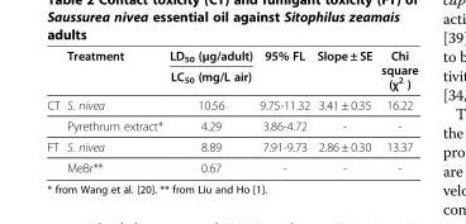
<table><thead><tr><td rowspan="2"></td><td rowspan="2">Treatment</td><td rowspan="2">LD<sub>50</sub> (μg/adult) LC<sub>50</sub> (mg/L air)</td><td rowspan="2">95% FL</td><td rowspan="2">Slope ± SE</td><td rowspan="2">Chi square (χ<sup>2</sup> )</td></tr><tr></tr></thead><tbody><tr><td rowspan="2">CT</td><td>S. nivea</td><td>10.56</td><td>9.75-11.32</td><td>3.41 ± 0.35</td><td>16.22</td></tr><tr><td>Pyrethrum extract*</td><td>4.29</td><td>3.86-4.72</td><td>-</td><td>-</td></tr><tr><td rowspan="2">FT</td><td>S. nivea</td><td>8.89</td><td>7.91-9.73</td><td>2.86 ± 0.30</td><td>13.37</td></tr><tr><td>MeBr**</td><td>0.67</td><td>-</td><td>-</td><td>-</td></tr></tbody></table>